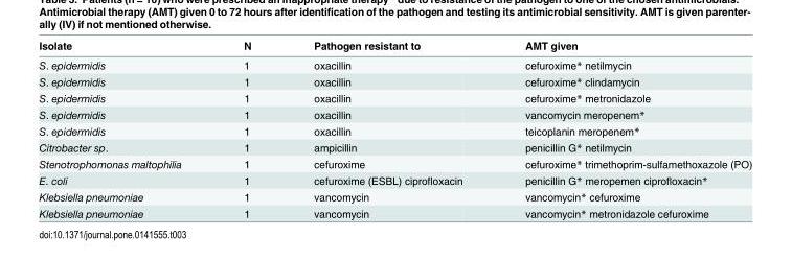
<table><thead><tr><td>Isolate</td><td>N</td><td>Pathogen resistant to</td><td>AMT given</td></tr></thead><tbody><tr><td>S. epidermidis</td><td>1</td><td>oxacillin</td><td>cefuroxime* netilmycin</td></tr><tr><td>S. epidermidis</td><td>1</td><td>oxacillin</td><td>cefuroxime* clindamycin</td></tr><tr><td>S. epidermidis</td><td>1</td><td>oxacillin</td><td>cefuroxime* metronidazole</td></tr><tr><td>S. epidermidis</td><td>1</td><td>oxacillin</td><td>vancomycin meropenem*</td></tr><tr><td>S. epidermidis</td><td>1</td><td>oxacillin</td><td>teicoplanin meropenem*</td></tr><tr><td>Citrobacter sp.</td><td>1</td><td>ampicillin</td><td>penicillin G* netilmycin</td></tr><tr><td>Stenotrophomonas maltophilia</td><td>1</td><td>cefuroxime</td><td>cefuroxime* trimethoprim-sulfamethoxazole (PO)</td></tr><tr><td>E. coli</td><td>1</td><td>cefuroxime (ESBL) ciprofloxacin</td><td>penicillin G* meropemen ciprofloxacin*</td></tr><tr><td>Klebsiella pneumoniae</td><td>1</td><td>vancomycin</td><td>vancomycin* cefuroxime</td></tr><tr><td>Klebsiella pneumoniae</td><td>1</td><td>vancomycin</td><td>vancomycin* metronidazole cefuroxime</td></tr></tbody></table>